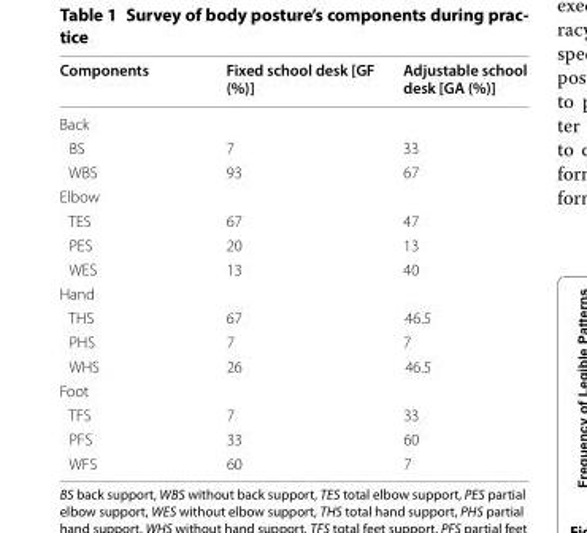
<table><thead><tr><td>Components</td><td>Fixed school desk [GF (%)]</td><td>Adjustable school desk [GA (%)]</td></tr></thead><tbody><tr><td colspan="3">Back</td></tr><tr><td>BS</td><td>7</td><td>33</td></tr><tr><td>WBS</td><td>93</td><td>67</td></tr><tr><td colspan="3">Elbow</td></tr><tr><td>TES</td><td>67</td><td>47</td></tr><tr><td>PES</td><td>20</td><td>13</td></tr><tr><td>WES</td><td>13</td><td>40</td></tr><tr><td colspan="3">Hand</td></tr><tr><td>THS</td><td>67</td><td>46.5</td></tr><tr><td>PHS</td><td>7</td><td>7</td></tr><tr><td>WHS</td><td>26</td><td>46.5</td></tr><tr><td colspan="3">Foot</td></tr><tr><td>TFS</td><td>7</td><td>33</td></tr><tr><td>PFS</td><td>33</td><td>60</td></tr><tr><td>WFS</td><td>60</td><td>7</td></tr></tbody></table>